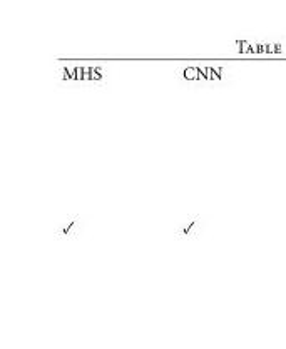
<table><tbody><tr><td>MHS</td><td>CNN</td></tr><tr><td>✓</td><td>✓</td></tr></tbody></table>